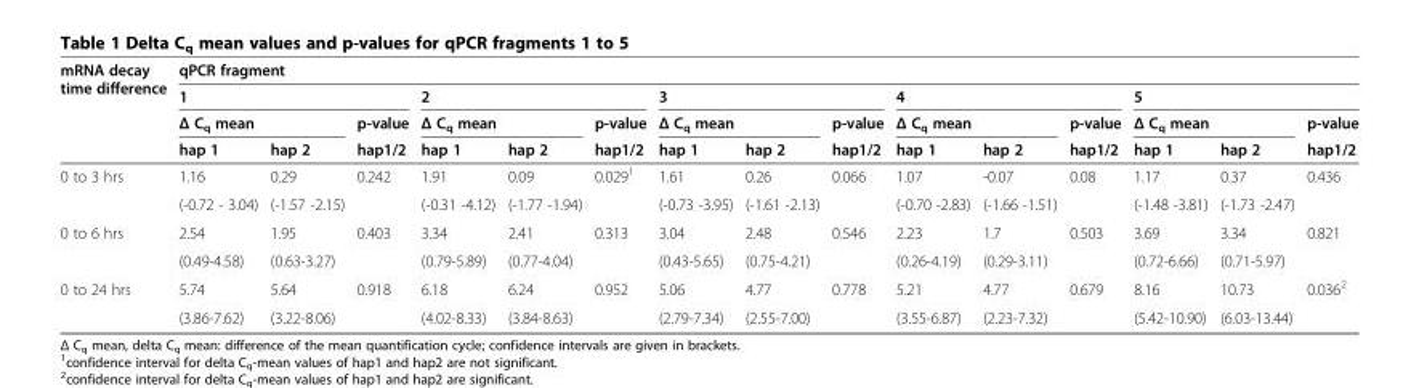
<table><thead><tr><td rowspan="4">mRNA decay time difference</td><td colspan="15">qPCR fragment</td></tr><tr><td colspan="3">1</td><td colspan="3">2</td><td colspan="3">3</td><td colspan="3">4</td><td colspan="3">5</td></tr><tr><td colspan="2">Δ C<sub>q</sub> mean</td><td rowspan="2">p-value hap1/2</td><td colspan="2">Δ C<sub>q</sub> mean</td><td rowspan="2">p-value hap1/2</td><td colspan="2">Δ C<sub>q</sub> mean</td><td rowspan="2">p-value hap1/2</td><td colspan="2">Δ C<sub>q</sub> mean</td><td rowspan="2">p-value hap1/2</td><td colspan="2">Δ C<sub>q</sub> mean</td><td rowspan="2">p-value hap1/2</td></tr><tr><td>hap 1</td><td>hap 2</td><td>hap 1</td><td>hap 2</td><td>hap 1</td><td>hap 2</td><td>hap 1</td><td>hap 2</td><td>hap 1</td><td>hap 2</td></tr></thead><tbody><tr><td rowspan="2">0 to 3 hrs</td><td>1.16</td><td>0.29</td><td>0.242</td><td>1.91</td><td>0.09</td><td>0.029<sup>1</sup></td><td>1.61</td><td>0.26</td><td>0.066</td><td>1.07</td><td>-0.07</td><td>0.08</td><td>1.17</td><td>0.37</td><td>0.436</td></tr><tr><td>(-0.72 - 3.04)</td><td>(-1.57 -2.15)</td><td></td><td>(-0.31 -4.12)</td><td>(-1.77 -1.94)</td><td></td><td>(-0.73 -3.95)</td><td>(-1.61 -2.13)</td><td></td><td>(-0.70 -2.83)</td><td>(-1.66 -1.51)</td><td></td><td>(-1.48 -3.81)</td><td>(-1.73 -2.47)</td><td></td></tr><tr><td rowspan="2">0 to 6 hrs</td><td>2.54</td><td>1.95</td><td>0.403</td><td>3.34</td><td>2.41</td><td>0.313</td><td>3.04</td><td>2.48</td><td>0.546</td><td>2.23</td><td>1.7</td><td>0.503</td><td>3.69</td><td>3.34</td><td>0.821</td></tr><tr><td>(0.49-4.58)</td><td>(0.63-3.27)</td><td></td><td>(0.79-5.89)</td><td>(0.77-4.04)</td><td></td><td>(0.43-5.65)</td><td>(0.75-4.21)</td><td></td><td>(0.26-4.19)</td><td>(0.29-3.11)</td><td></td><td>(0.72-6.66)</td><td>(0.71-5.97)</td><td></td></tr><tr><td rowspan="2">0 to 24 hrs</td><td>5.74</td><td>5.64</td><td>0.918</td><td>6.18</td><td>6.24</td><td>0.952</td><td>5.06</td><td>4.77</td><td>0.778</td><td>5.21</td><td>4.77</td><td>0.679</td><td>8.16</td><td>10.73</td><td>0.036<sup>2</sup></td></tr><tr><td>(3.86-7.62)</td><td>(3.22-8.06)</td><td></td><td>(4.02-8.33)</td><td>(3.84-8.63)</td><td></td><td>(2.79-7.34)</td><td>(2.55-7.00)</td><td></td><td>(3.55-6.87)</td><td>(2.23-7.32)</td><td></td><td>(5.42-10.90)</td><td>(6.03-13.44)</td><td></td></tr></tbody></table>